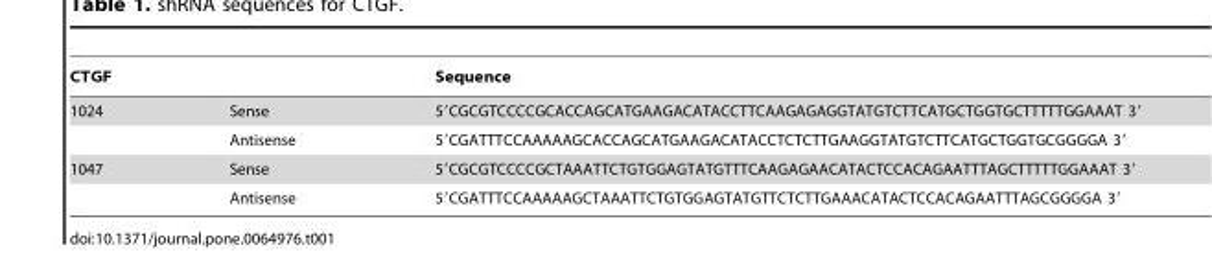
<table><thead><tr><td colspan="2">CTGF</td><td rowspan="2">Sequence 5′CGCGTCCCCGCACCAGCATGAAGACATACCTTCAAGAGAGGTATGTCTTCATGCTGGTGCTTTTTGGAAAT 3′</td></tr><tr><td>1024</td><td>Sense</td></tr></thead><tbody><tr><td></td><td>Antisense</td><td>5′CGATTTCCAAAAAGCACCAGCATGAAGACATACCTCTCTTGAAGGTATGTCTTCATGCTGGTGCGGGGA 3′</td></tr><tr><td rowspan="2">1047</td><td>Sense</td><td>5′CGCGTCCCCGCTAAATTCTGTGGAGTATGTTTCAAGAGAACATACTCCACAGAATTTAGCTTTTTGGAAAT 3′</td></tr><tr><td>Antisense</td><td>5′CGATTTCCAAAAAGCTAAATTCTGTGGAGTATGTTCTCTTGAAACATACTCCACAGAATTTAGCGGGGA 3′</td></tr></tbody></table>